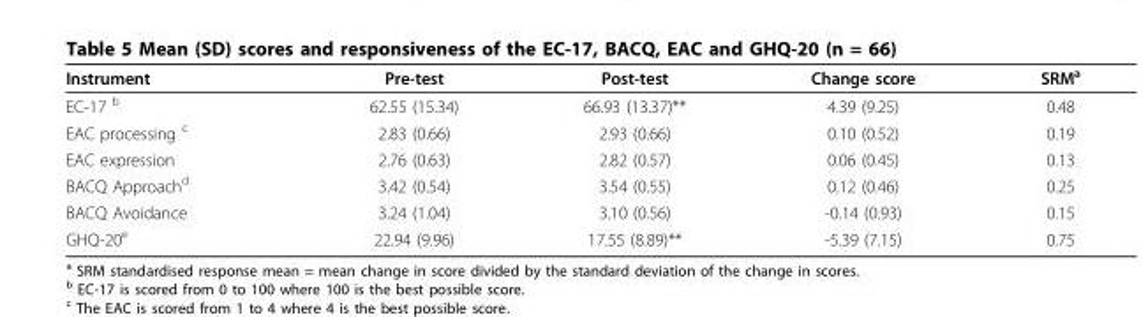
<table><thead><tr><td>Instrument</td><td>Pre-test</td><td>Post-test</td><td>Change score</td><td>SRM<sup>a</sup></td></tr></thead><tbody><tr><td>EC-17 <sup>b</sup></td><td>62.55 (15.34)</td><td>66.93 (13.37)**</td><td>4.39 (9.25)</td><td>0.48</td></tr><tr><td>EAC processing <sup>c</sup></td><td>2.83 (0.66)</td><td>2.93 (0.66)</td><td>0.10 (0.52)</td><td>0.19</td></tr><tr><td>EAC expression</td><td>2.76 (0.63)</td><td>2.82 (0.57)</td><td>0.06 (0.45)</td><td>0.13</td></tr><tr><td>BACQ Approach<sup>d</sup></td><td>3.42 (0.54)</td><td>3.54 (0.55)</td><td>0.12 (0.46)</td><td>0.25</td></tr><tr><td>BACQ Avoidance</td><td>3.24 (1.04)</td><td>3.10 (0.56)</td><td>-0.14 (0.93)</td><td>0.15</td></tr><tr><td>GHQ-20<sup>e</sup></td><td>22.94 (9.96)</td><td>17.55 (8.89)**</td><td>-5.39 (7.15)</td><td>0.75</td></tr></tbody></table>